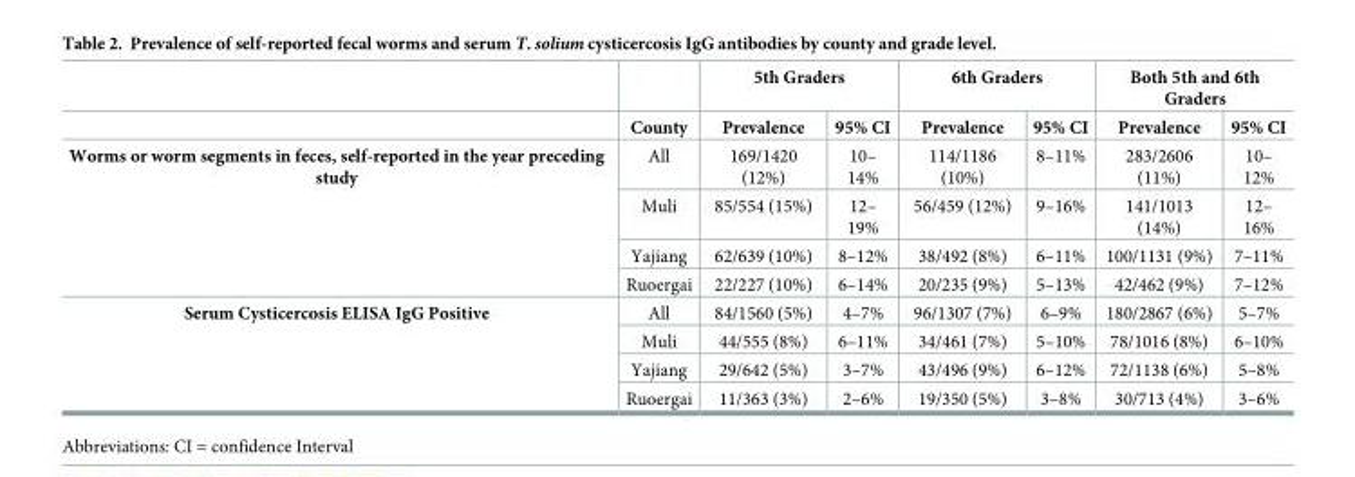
<table><thead><tr><td rowspan="2"></td><td rowspan="2">County</td><td colspan="2">5th Graders</td><td colspan="2">6th Graders</td><td colspan="2">Both 5th and 6th Graders</td></tr><tr><td>Prevalence</td><td>95% CI</td><td>Prevalence</td><td>95% CI</td><td>Prevalence</td><td>95% CI</td></tr></thead><tbody><tr><td rowspan="4">Worms or worm segments in feces, self-reported in the year preceding study</td><td>All</td><td>169/1420 (12%)</td><td>10– 14%</td><td>114/1186 (10%)</td><td>8–11%</td><td>283/2606 (11%)</td><td>10– 12%</td></tr><tr><td>Muli</td><td>85/554 (15%)</td><td>12– 19%</td><td>56/459 (12%)</td><td>9–16%</td><td>141/1013 (14%)</td><td>12– 16%</td></tr><tr><td>Yajiang</td><td>62/639 (10%)</td><td>8–12%</td><td>38/492 (8%)</td><td>6–11%</td><td>100/1131 (9%)</td><td>7–11%</td></tr><tr><td>Ruoergai</td><td>22/227 (10%)</td><td>6–14%</td><td>20/235 (9%)</td><td>5–13%</td><td>42/462 (9%)</td><td>7–12%</td></tr><tr><td rowspan="4">Serum Cysticercosis ELISA IgG Positive</td><td>All</td><td>84/1560 (5%)</td><td>4–7%</td><td>96/1307 (7%)</td><td>6–9%</td><td>180/2867 (6%)</td><td>5–7%</td></tr><tr><td>Muli</td><td>44/555 (8%)</td><td>6–11%</td><td>34/461 (7%)</td><td>5–10%</td><td>78/1016 (8%)</td><td>6–10%</td></tr><tr><td>Yajiang</td><td>29/642 (5%)</td><td>3–7%</td><td>43/496 (9%)</td><td>6–12%</td><td>72/1138 (6%)</td><td>5–8%</td></tr><tr><td>Ruoergai</td><td>11/363 (3%)</td><td>2–6%</td><td>19/350 (5%)</td><td>3–8%</td><td>30/713 (4%)</td><td>3–6%</td></tr></tbody></table>